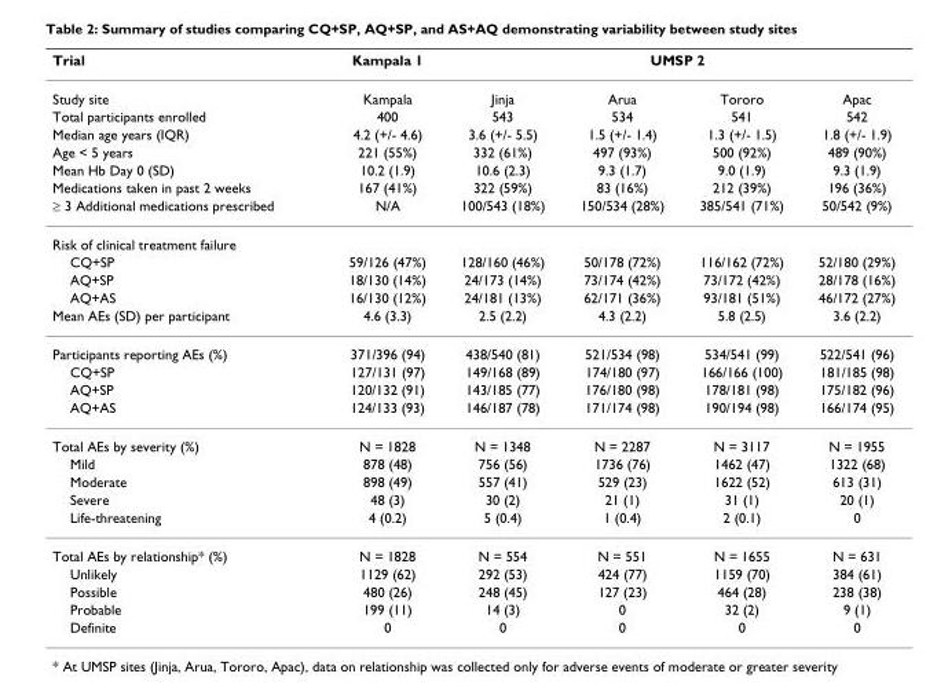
<table><thead><tr><td rowspan="2">Trial Study site</td><td rowspan="2">Kampala 1 Kampala</td><td colspan="4">UMSP 2</td></tr><tr><td>Jinja</td><td>Arua</td><td>Tororo</td><td>Apac</td></tr></thead><tbody><tr><td>Total participants enrolled</td><td>400</td><td>543</td><td>534</td><td>541</td><td>542</td></tr><tr><td>Median age years (IQR)</td><td>4.2 (+/- 4.6)</td><td>3.6 (+/- 5.5)</td><td>1.5 (+/- 1.4)</td><td>1.3 (+/- 1.5)</td><td>1.8 (+/- 1.9)</td></tr><tr><td>Age &lt; 5 years</td><td>221 (55%)</td><td>332 (61%)</td><td>497 (93%)</td><td>500 (92%)</td><td>489 (90%)</td></tr><tr><td>Mean Hb Day 0 (SD)</td><td>10.2 (1.9)</td><td>10.6 (2.3)</td><td>9.3 (1.7)</td><td>9.0 (1.9)</td><td>9.3 (1.9)</td></tr><tr><td>Medications taken in past 2 weeks</td><td>167 (41%)</td><td>322 (59%)</td><td>83 (16%)</td><td>212 (39%)</td><td>196 (36%)</td></tr><tr><td>≥ 3 Additional medications prescribed</td><td>N/A</td><td>100/543 (18%)</td><td>150/534 (28%)</td><td>385/541 (71%)</td><td>50/542 (9%)</td></tr><tr><td colspan="6">Risk of clinical treatment failure</td></tr><tr><td>CQ+SP</td><td>59/126 (47%)</td><td>128/160 (46%)</td><td>50/178 (72%)</td><td>116/162 (72%)</td><td>52/180 (29%)</td></tr><tr><td>AQ+SP</td><td>18/130 (14%)</td><td>24/173 (14%)</td><td>73/174 (42%)</td><td>73/172 (42%)</td><td>28/178 (16%)</td></tr><tr><td>AQ+AS</td><td>16/130 (12%)</td><td>24/181 (13%)</td><td>62/171 (36%)</td><td>93/181 (51%)</td><td>46/172 (27%)</td></tr><tr><td>Mean AEs (SD) per participant</td><td>4.6 (3.3)</td><td>2.5 (2.2)</td><td>4.3 (2.2)</td><td>5.8 (2.5)</td><td>3.6 (2.2)</td></tr><tr><td>Participants reporting AEs (%)</td><td>371/396 (94)</td><td>438/540 (81)</td><td>521/534 (98)</td><td>534/541 (99)</td><td>522/541 (96)</td></tr><tr><td>CQ+SP</td><td>127/131 (97)</td><td>149/168 (89)</td><td>174/180 (97)</td><td>166/166 (100)</td><td>181/185 (98)</td></tr><tr><td>AQ+SP</td><td>120/132 (91)</td><td>143/185 (77)</td><td>176/180 (98)</td><td>178/181 (98)</td><td>175/182 (96)</td></tr><tr><td>AQ+AS</td><td>124/133 (93)</td><td>146/187 (78)</td><td>171/174 (98)</td><td>190/194 (98)</td><td>166/174 (95)</td></tr><tr><td>Total AEs by severity (%)</td><td>N = 1828</td><td>N = 1348</td><td>N = 2287</td><td>N = 3117</td><td>N = 1955</td></tr><tr><td>Mild</td><td>878 (48)</td><td>756 (56)</td><td>1736 (76)</td><td>1462 (47)</td><td>1322 (68)</td></tr><tr><td>Moderate</td><td>898 (49)</td><td>557 (41)</td><td>529 (23)</td><td>1622 (52)</td><td>613 (31)</td></tr><tr><td>Severe</td><td>48 (3)</td><td>30 (2)</td><td>21 (1)</td><td>31 (1)</td><td>20 (1)</td></tr><tr><td>Life-threatening</td><td>4 (0.2)</td><td>5 (0.4)</td><td>1 (0.4)</td><td>2 (0.1)</td><td>0</td></tr><tr><td>Total AEs by relationship* (%)</td><td>N = 1828</td><td>N = 554</td><td>N = 551</td><td>N = 1655</td><td>N = 631</td></tr><tr><td>Unlikely</td><td>1129 (62)</td><td>292 (53)</td><td>424 (77)</td><td>1159 (70)</td><td>384 (61)</td></tr><tr><td>Possible</td><td>480 (26)</td><td>248 (45)</td><td>127 (23)</td><td>464 (28)</td><td>238 (38)</td></tr><tr><td>Probable</td><td>199 (11)</td><td>14 (3)</td><td>0</td><td>32 (2)</td><td>9 (1)</td></tr><tr><td>Definite</td><td>0</td><td>0</td><td>0</td><td>0</td><td>0</td></tr></tbody></table>